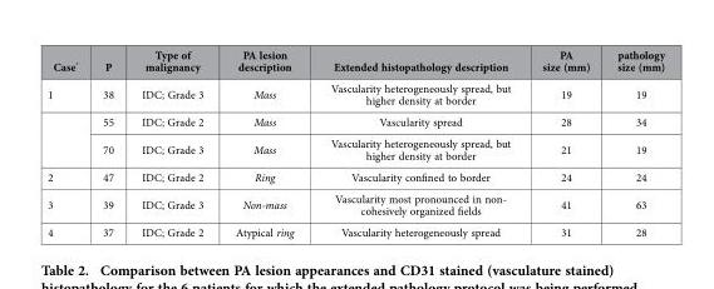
<table><thead><tr><td>Case*</td><td>P</td><td>Type of malignancy</td><td>PA lesion description</td><td>Extended histopathology description</td><td>PA size (mm)</td><td>pathology size (mm)</td></tr></thead><tbody><tr><td rowspan="3">1</td><td>38</td><td>IDC; Grade 3</td><td>Mass</td><td>Vascularity heterogeneously spread, but higher density at border</td><td>19</td><td>19</td></tr><tr><td>55</td><td>IDC; Grade 2</td><td>Mass</td><td>Vascularity spread</td><td>28</td><td>34</td></tr><tr><td>70</td><td>IDC; Grade 3</td><td>Mass</td><td>Vascularity heterogeneously spread, but higher density at border</td><td>21</td><td>19</td></tr><tr><td>2</td><td>47</td><td>IDC; Grade 2</td><td>Ring</td><td>Vascularity confined to border</td><td>24</td><td>24</td></tr><tr><td>3</td><td>39</td><td>IDC; Grade 3</td><td>Non-mass</td><td>Vascularity most pronounced in non- cohesively organized fields</td><td>41</td><td>63</td></tr><tr><td>4</td><td>37</td><td>IDC; Grade 2</td><td>Atypical ring</td><td>Vascularity heterogeneously spread</td><td>31</td><td>28</td></tr></tbody></table>